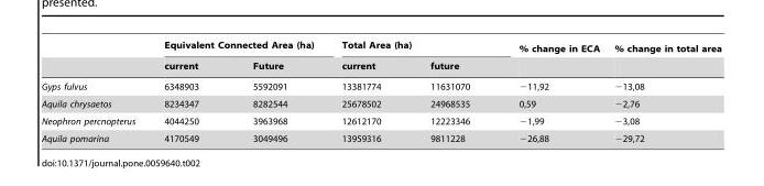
<table><thead><tr><td rowspan="2"></td><td colspan="2">Equivalent Connected Area (ha)</td><td colspan="2">Total Area (ha)</td><td rowspan="2">% change in ECA</td><td rowspan="2">% change in total area</td></tr><tr><td>current</td><td>Future</td><td>current</td><td>future</td></tr></thead><tbody><tr><td>Gyps fulvus</td><td>6348903</td><td>5592091</td><td>13381774</td><td>11631070</td><td>−11,92</td><td>−13,08</td></tr><tr><td>Aquila chrysaetos</td><td>8234347</td><td>8282544</td><td>25678502</td><td>24968535</td><td>0,59</td><td>−2,76</td></tr><tr><td>Neophron percnopterus</td><td>4044250</td><td>3963968</td><td>12612170</td><td>12223346</td><td>−1,99</td><td>−3,08</td></tr><tr><td>Aquila pomarina</td><td>4170549</td><td>3049496</td><td>13959316</td><td>9811228</td><td>−26,88</td><td>−29,72</td></tr></tbody></table>